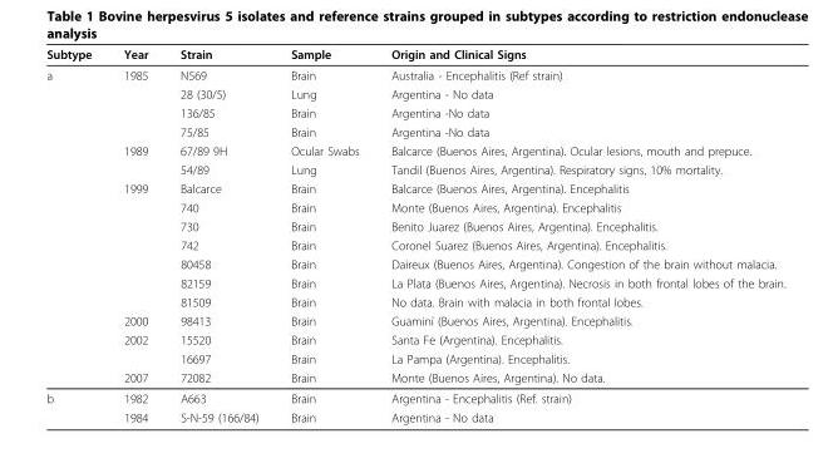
<table><thead><tr><td>Subtype</td><td>Year</td><td>Strain</td><td>Sample</td><td>Origin and Clinical Signs</td></tr></thead><tbody><tr><td rowspan="17">a</td><td>1985</td><td>N569</td><td>Brain</td><td>Australia - Encephalitis (Ref strain)</td></tr><tr><td></td><td>28 (30/5)</td><td>Lung</td><td>Argentina - No data</td></tr><tr><td></td><td>136/85</td><td>Brain</td><td>Argentina -No data</td></tr><tr><td></td><td>75/85</td><td>Brain</td><td>Argentina -No data</td></tr><tr><td>1989</td><td>67/89 9H</td><td>Ocular Swabs</td><td>Balcarce (Buenos Aires, Argentina). Ocular lesions, mouth and prepuce.</td></tr><tr><td></td><td>54/89</td><td>Lung</td><td>Tandil (Buenos Aires, Argentina). Respiratory signs, 10% mortality.</td></tr><tr><td>1999</td><td>Balcarce</td><td>Brain</td><td>Balcarce (Buenos Aires, Argentina). Encephalitis</td></tr><tr><td></td><td>740</td><td>Brain</td><td>Monte (Buenos Aires, Argentina). Encephalitis</td></tr><tr><td></td><td>730</td><td>Brain</td><td>Benito Juarez (Buenos Aires, Argentina). Encephalitis.</td></tr><tr><td></td><td>742</td><td>Brain</td><td>Coronel Suarez (Buenos Aires, Argentina). Encephalitis.</td></tr><tr><td></td><td>80458</td><td>Brain</td><td>Daireux (Buenos Aires, Argentina). Congestion of the brain without malacia.</td></tr><tr><td></td><td>82159</td><td>Brain</td><td>La Plata (Buenos Aires, Argentina). Necrosis in both frontal lobes of the brain.</td></tr><tr><td></td><td>81509</td><td>Brain</td><td>No data. Brain with malacia in both frontal lobes.</td></tr><tr><td>2000</td><td>98413</td><td>Brain</td><td>Guaminí (Buenos Aires, Argentina). Encephalitis.</td></tr><tr><td>2002</td><td>15520</td><td>Brain</td><td>Santa Fe (Argentina). Encephalitis.</td></tr><tr><td></td><td>16697</td><td>Brain</td><td>La Pampa (Argentina). Encephalitis.</td></tr><tr><td>2007</td><td>72082</td><td>Brain</td><td>Monte (Buenos Aires, Argentina). No data.</td></tr><tr><td rowspan="2">b</td><td>1982</td><td>A663</td><td>Brain</td><td>Argentina - Encephalitis (Ref. strain)</td></tr><tr><td>1984</td><td>S-N-59 (166/84)</td><td>Brain</td><td>Argentina - No data</td></tr></tbody></table>